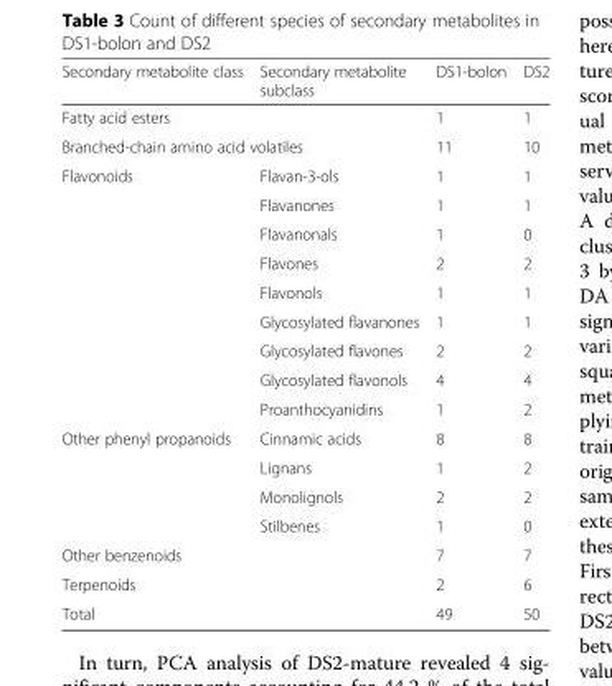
<table><thead><tr><td>Secondary metabolite class</td><td>Secondary metabolite subclass</td><td>DS1-bolon</td><td>DS2</td></tr></thead><tbody><tr><td colspan="2">Fatty acid esters</td><td>1</td><td>1</td></tr><tr><td colspan="2">Branched-chain amino acid volatiles</td><td>11</td><td>10</td></tr><tr><td rowspan="9">Flavonoids</td><td>Flavan-3-ols</td><td>1</td><td>1</td></tr><tr><td>Flavanones</td><td>1</td><td>1</td></tr><tr><td>Flavanonals</td><td>1</td><td>0</td></tr><tr><td>Flavones</td><td>2</td><td>2</td></tr><tr><td>Flavonols</td><td>1</td><td>1</td></tr><tr><td>Glycosylated flavanones</td><td>1</td><td>1</td></tr><tr><td>Glycosylated flavones</td><td>2</td><td>2</td></tr><tr><td>Glycosylated flavonols</td><td>4</td><td>4</td></tr><tr><td>Proanthocyanidins</td><td>1</td><td>2</td></tr><tr><td rowspan="4">Other phenyl propanoids</td><td>Cinnamic acids</td><td>8</td><td>8</td></tr><tr><td>Lignans</td><td>1</td><td>2</td></tr><tr><td>Monolignols</td><td>2</td><td>2</td></tr><tr><td>Stilbenes</td><td>1</td><td>0</td></tr><tr><td colspan="2">Other benzenoids</td><td>7</td><td>7</td></tr><tr><td>Terpenoids</td><td></td><td>2</td><td>6</td></tr><tr><td>Total</td><td></td><td>49</td><td>50</td></tr></tbody></table>